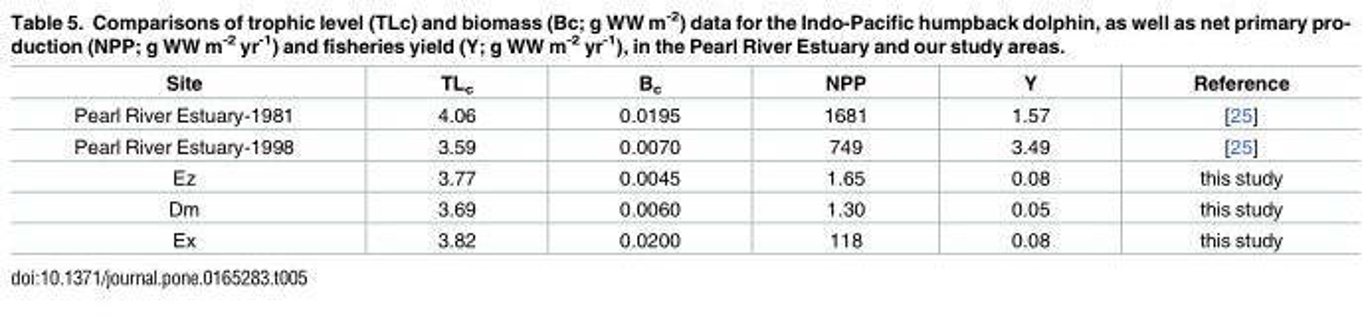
<table><thead><tr><td>Site</td><td>TL<sub>c</sub></td><td>B<sub>c</sub></td><td>NPP</td><td>Y</td><td>Reference</td></tr></thead><tbody><tr><td>Pearl River Estuary-1981</td><td>4.06</td><td>0.0195</td><td>1681</td><td>1.57</td><td>[25]</td></tr><tr><td>Pearl River Estuary-1998</td><td>3.59</td><td>0.0070</td><td>749</td><td>3.49</td><td>[25]</td></tr><tr><td>Ez</td><td>3.77</td><td>0.0045</td><td>1.65</td><td>0.08</td><td>this study</td></tr><tr><td>Dm</td><td>3.69</td><td>0.0060</td><td>1.30</td><td>0.05</td><td>this study</td></tr><tr><td>Ex</td><td>3.82</td><td>0.0200</td><td>118</td><td>0.08</td><td>this study</td></tr></tbody></table>